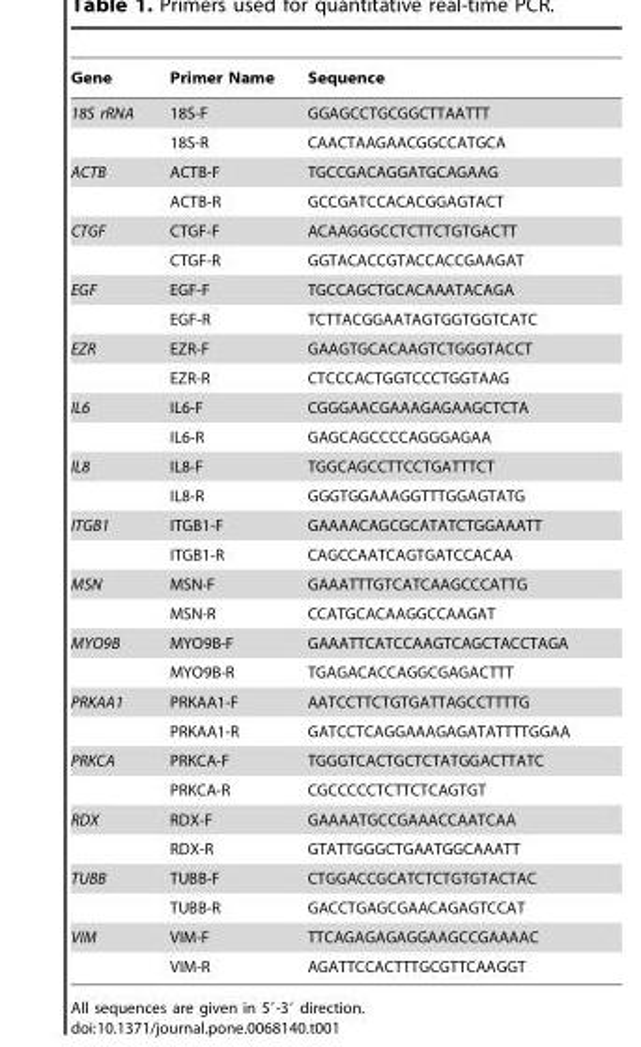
<table><thead><tr><td>Gene</td><td>Primer Name</td><td>Sequence</td></tr></thead><tbody><tr><td rowspan="2">18S rRNA</td><td>18S-F</td><td>GGAGCCTGCGGCTTAATTT</td></tr><tr><td>18S-R</td><td>CAACTAAGAACGGCCATGCA</td></tr><tr><td rowspan="2">ACTB</td><td>ACTB-F</td><td>TGCCGACAGGATGCAGAAG</td></tr><tr><td>ACTB-R</td><td>GCCGATCCACACGGAGTACT</td></tr><tr><td rowspan="2">CTGF</td><td>CTGF-F</td><td>ACAAGGGCCTCTTCTGTGACTT</td></tr><tr><td>CTGF-R</td><td>GGTACACCGTACCACCGAAGAT</td></tr><tr><td rowspan="2">EGF</td><td>EGF-F</td><td>TGCCAGCTGCACAAATACAGA</td></tr><tr><td>EGF-R</td><td>TCTTACGGAATAGTGGTGGTCATC</td></tr><tr><td rowspan="2">EZR</td><td>EZR-F</td><td>GAAGTGCACAAGTCTGGGTACCT</td></tr><tr><td>EZR-R</td><td>CTCCCACTGGTCCCTGGTAAG</td></tr><tr><td rowspan="2">IL6</td><td>IL6-F</td><td>CGGGAACGAAAGAGAAGCTCTA</td></tr><tr><td>IL6-R</td><td>GAGCAGCCCCAGGGAGAA</td></tr><tr><td rowspan="2">IL8</td><td>IL8-F</td><td>TGGCAGCCTTCCTGATTTCT</td></tr><tr><td>IL8-R</td><td>GGGTGGAAAGGTTTGGAGTATG</td></tr><tr><td rowspan="2">ITGB1</td><td>ITGB1-F</td><td>GAAAACAGCGCATATCTGGAAATT</td></tr><tr><td>ITGB1-R</td><td>CAGCCAATCAGTGATCCACAA</td></tr><tr><td rowspan="2">MSN</td><td>MSN-F</td><td>GAAATTTGTCATCAAGCCCATTG</td></tr><tr><td>MSN-R</td><td>CCATGCACAAGGCCAAGAT</td></tr><tr><td rowspan="2">MYO9B</td><td>MYO9B-F</td><td>GAAATTCATCCAAGTCAGCTACCTAGA</td></tr><tr><td>MYO9B-R</td><td>TGAGACACCAGGCGAGACTTT</td></tr><tr><td rowspan="2">PRKAA1</td><td>PRKAA1-F</td><td>AATCCTTCTGTGATTAGCCTTTTG</td></tr><tr><td>PRKAA1-R</td><td>GATCCTCAGGAAAGAGATATTTTGGAA</td></tr><tr><td rowspan="2">PRKCA</td><td>PRKCA-F</td><td>TGGGTCACTGCTCTATGGACTTATC</td></tr><tr><td>PRKCA-R</td><td>CGCCCCCTCTTCTCAGTGT</td></tr><tr><td rowspan="2">RDX</td><td>RDX-F</td><td>GAAAATGCCGAAACCAATCAA</td></tr><tr><td>RDX-R</td><td>GTATTGGGCTGAATGGCAAATT</td></tr><tr><td rowspan="2">TUBB</td><td>TUBB-F</td><td>CTGGACCGCATCTCTGTGTACTAC</td></tr><tr><td>TUBB-R</td><td>GACCTGAGCGAACAGAGTCCAT</td></tr><tr><td rowspan="2">VIM</td><td>VIM-F</td><td>TTCAGAGAGAGGAAGCCGAAAAC</td></tr><tr><td>VIM-R</td><td>AGATTCCACTTTGCGTTCAAGGT</td></tr></tbody></table>